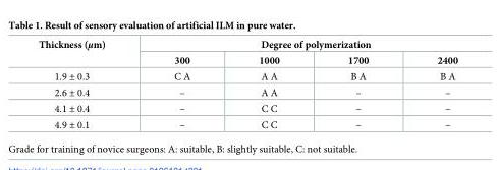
<table><thead><tr><td rowspan="2">Thickness (μm)</td><td colspan="4">Degree of polymerization</td></tr><tr><td>300</td><td>1000</td><td>1700</td><td>2400</td></tr></thead><tbody><tr><td>1.9 ± 0.3</td><td>C A</td><td>A A</td><td>B A</td><td>B A</td></tr><tr><td>2.6 ± 0.4</td><td>–</td><td>A A</td><td>–</td><td>–</td></tr><tr><td>4.1 ± 0.4</td><td>–</td><td>C C</td><td>–</td><td>–</td></tr><tr><td>4.9 ± 0.1</td><td>–</td><td>C C</td><td>–</td><td>–</td></tr></tbody></table>